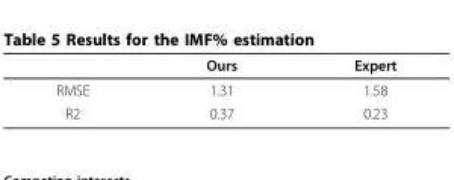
<table><thead><tr><td></td><td>Ours</td><td>Expert</td></tr></thead><tbody><tr><td>RMSE</td><td>1.31</td><td>1.58</td></tr><tr><td>R2</td><td>0.37</td><td>0.23</td></tr></tbody></table>